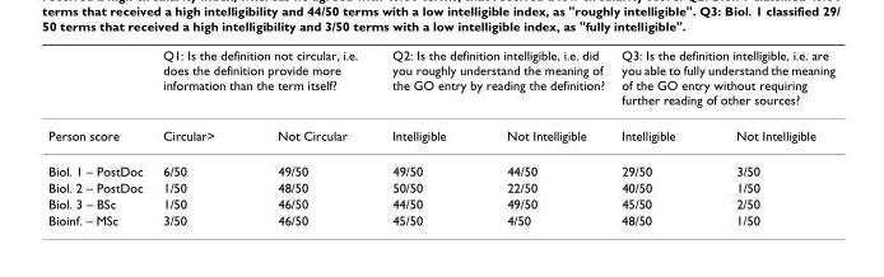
<table><thead><tr><td rowspan="2">Person score</td><td colspan="2">Q1: Is the definition not circular, i.e. does the definition provide more information than the term itself?</td><td colspan="2">Q2: Is the definition intelligible, i.e. did you roughly understand the meaning of the GO entry by reading the definition?</td><td colspan="2">Q3: Is the definition intelligible, i.e. are you able to fully understand the meaning of the GO entry without requiring further reading of other sources?</td></tr><tr><td>Circular&gt;</td><td>Not Circular</td><td>Intelligible</td><td>Not Intelligible</td><td>Intelligible</td><td>Not Intelligible</td></tr></thead><tbody><tr><td>Biol. 1 – PostDoc</td><td>6/50</td><td>49/50</td><td>49/50</td><td>44/50</td><td>29/50</td><td>3/50</td></tr><tr><td>Biol. 2 – PostDoc</td><td>1/50</td><td>48/50</td><td>50/50</td><td>22/50</td><td>40/50</td><td>1/50</td></tr><tr><td>Biol. 3 – BSc</td><td>1/50</td><td>46/50</td><td>44/50</td><td>49/50</td><td>45/50</td><td>2/50</td></tr><tr><td>Bioinf. – MSc</td><td>3/50</td><td>46/50</td><td>45/50</td><td>4/50</td><td>48/50</td><td>1/50</td></tr></tbody></table>